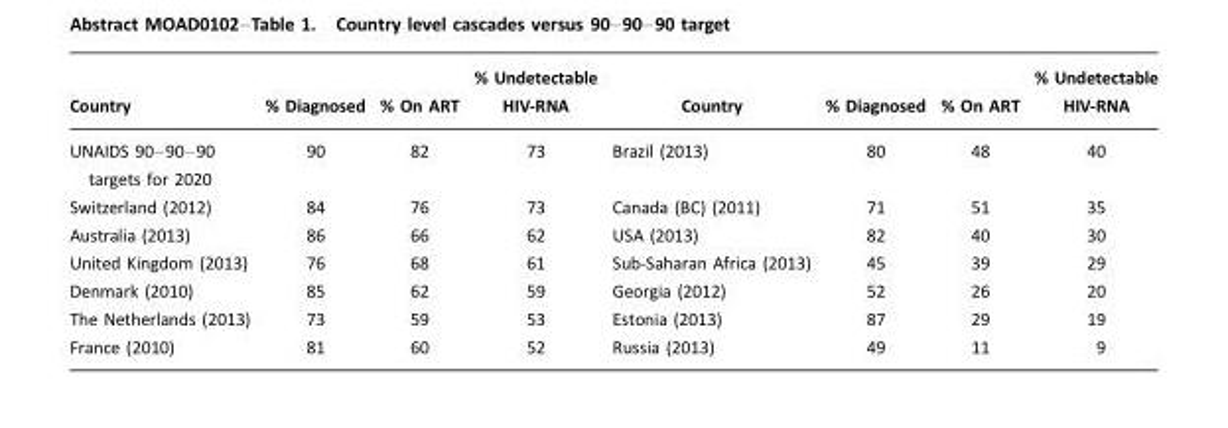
<table><thead><tr><td>Country</td><td>% Diagnosed</td><td>% On ART</td><td>% Undetectable HIV-RNA</td><td>Country</td><td>% Diagnosed</td><td>% On ART</td><td>% Undetectable HIV-RNA</td></tr></thead><tbody><tr><td>UNAIDS 90–90–90 targets for 2020</td><td>90</td><td>82</td><td>73</td><td>Brazil (2013)</td><td>80</td><td>48</td><td>40</td></tr><tr><td>Switzerland (2012)</td><td>84</td><td>76</td><td>73</td><td>Canada (BC) (2011)</td><td>71</td><td>51</td><td>35</td></tr><tr><td>Australia (2013)</td><td>86</td><td>66</td><td>62</td><td>USA (2013)</td><td>82</td><td>40</td><td>30</td></tr><tr><td>United Kingdom (2013)</td><td>76</td><td>68</td><td>61</td><td>Sub-Saharan Africa (2013)</td><td>45</td><td>39</td><td>29</td></tr><tr><td>Denmark (2010)</td><td>85</td><td>62</td><td>59</td><td>Georgia (2012)</td><td>52</td><td>26</td><td>20</td></tr><tr><td>The Netherlands (2013)</td><td>73</td><td>59</td><td>53</td><td>Estonia (2013)</td><td>87</td><td>29</td><td>19</td></tr><tr><td>France (2010)</td><td>81</td><td>60</td><td>52</td><td>Russia (2013)</td><td>49</td><td>11</td><td>9</td></tr></tbody></table>